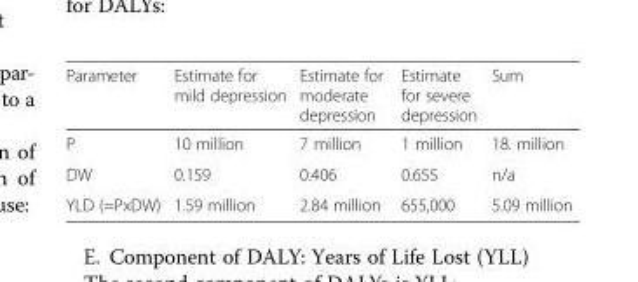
<table><thead><tr><td>Parameter</td><td>Estimate for mild depression</td><td>Estimate for moderate depression</td><td>Estimate for severe depression</td><td>Sum</td></tr></thead><tbody><tr><td>P</td><td>10 million</td><td>7 million</td><td>1 million</td><td>18. million</td></tr><tr><td>DW</td><td>0.159</td><td>0.406</td><td>0.655</td><td>n/a</td></tr><tr><td>YLD (=PxDW)</td><td>1.59 million</td><td>2.84 million</td><td>655,000</td><td>5.09 million</td></tr></tbody></table>